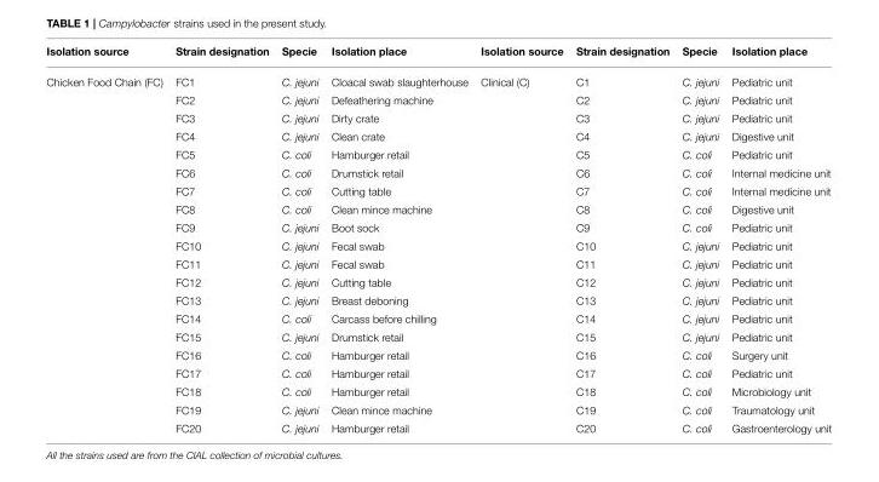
<table><thead><tr><td>Isolation source</td><td>Strain designation</td><td>Specie</td><td>Isolation place</td><td>Isolation source</td><td>Strain designation</td><td>Specie</td><td>Isolation place</td></tr></thead><tbody><tr><td rowspan="20">Chicken Food Chain (FC)</td><td>FC1</td><td>C. jejuni</td><td>Cloacal swab slaughterhouse</td><td>Clinical (C)</td><td>C1</td><td>C. jejuni</td><td>Pediatric unit</td></tr><tr><td>FC2</td><td>C. jejuni</td><td>Defeathering machine</td><td></td><td>C2</td><td>C. jejuni</td><td>Pediatric unit</td></tr><tr><td>FC3</td><td>C. jejuni</td><td>Dirty crate</td><td></td><td>C3</td><td>C. jejuni</td><td>Pediatric unit</td></tr><tr><td>FC4</td><td>C. jejuni</td><td>Clean crate</td><td></td><td>C4</td><td>C. jejuni</td><td>Digestive unit</td></tr><tr><td>FC5</td><td>C. coli</td><td>Hamburger retail</td><td></td><td>C5</td><td>C. coli</td><td>Pediatric unit</td></tr><tr><td>FC6</td><td>C. coli</td><td>Drumstick retail</td><td></td><td>C6</td><td>C. coli</td><td>Internal medicine unit</td></tr><tr><td>FC7</td><td>C. coli</td><td>Cutting table</td><td></td><td>C7</td><td>C. coli</td><td>Internal medicine unit</td></tr><tr><td>FC8</td><td>C. coli</td><td>Clean mince machine</td><td></td><td>C8</td><td>C. coli</td><td>Digestive unit</td></tr><tr><td>FC9</td><td>C. jejuni</td><td>Boot sock</td><td></td><td>C9</td><td>C. coli</td><td>Pediatric unit</td></tr><tr><td>FC10</td><td>C. jejuni</td><td>Fecal swab</td><td></td><td>C10</td><td>C. jejuni</td><td>Pediatric unit</td></tr><tr><td>FC11</td><td>C. jejuni</td><td>Fecal swab</td><td></td><td>C11</td><td>C. jejuni</td><td>Pediatric unit</td></tr><tr><td>FC12</td><td>C. jejuni</td><td>Cutting table</td><td></td><td>C12</td><td>C. jejuni</td><td>Pediatric unit</td></tr><tr><td>FC13</td><td>C. jejuni</td><td>Breast deboning</td><td></td><td>C13</td><td>C. jejuni</td><td>Pediatric unit</td></tr><tr><td>FC14</td><td>C. coli</td><td>Carcass before chilling</td><td></td><td>C14</td><td>C. jejuni</td><td>Pediatric unit</td></tr><tr><td>FC15</td><td>C. jejuni</td><td>Drumstick retail</td><td></td><td>C15</td><td>C. jejuni</td><td>Pediatric unit</td></tr><tr><td>FC16</td><td>C. coli</td><td>Hamburger retail</td><td></td><td>C16</td><td>C. coli</td><td>Surgery unit</td></tr><tr><td>FC17</td><td>C. coli</td><td>Hamburger retail</td><td></td><td>C17</td><td>C. coli</td><td>Pediatric unit</td></tr><tr><td>FC18</td><td>C. coli</td><td>Hamburger retail</td><td></td><td>C18</td><td>C. coli</td><td>Microbiology unit</td></tr><tr><td>FC19</td><td>C. jejuni</td><td>Clean mince machine</td><td></td><td>C19</td><td>C. coli</td><td>Traumatology unit</td></tr><tr><td>FC20</td><td>C. jejuni</td><td>Hamburger retail</td><td></td><td>C20</td><td>C. coli</td><td>Gastroenterology unit</td></tr></tbody></table>